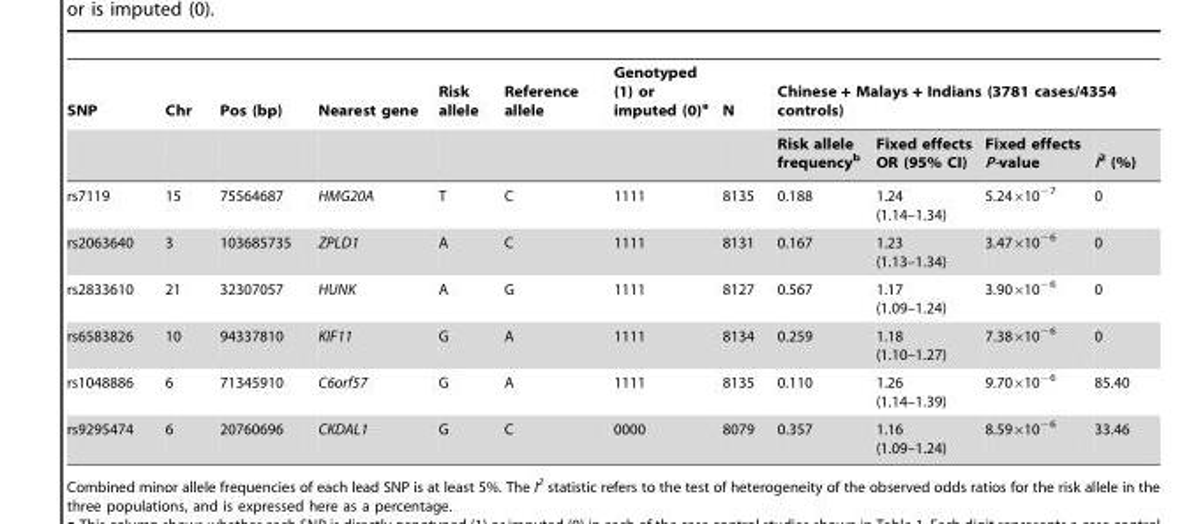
<table><thead><tr><td rowspan="2">SNP</td><td rowspan="2">Chr</td><td rowspan="2">Pos (bp)</td><td rowspan="2">Nearest gene</td><td rowspan="2">Risk allele</td><td rowspan="2">Reference allele</td><td rowspan="2">Genotyped (1) or imputed (0)<sup>a</sup></td><td rowspan="2">N</td><td colspan="4">Chinese + Malays + Indians (3781 cases/4354 controls)</td></tr><tr><td>Risk allele frequency<sup>b</sup></td><td>Fixed effects OR (95% CI)</td><td>Fixed effects P-value</td><td>I<sup>2</sup> (%)</td></tr></thead><tbody><tr><td>rs7119</td><td>15</td><td>75564687</td><td>HMG20A</td><td>T</td><td>C</td><td>1111</td><td>8135</td><td>0.188</td><td>1.24 (1.14–1.34)</td><td>5.24×10<sup>−7</sup></td><td>0</td></tr><tr><td>rs2063640</td><td>3</td><td>103685735</td><td>ZPLD1</td><td>A</td><td>C</td><td>1111</td><td>8131</td><td>0.167</td><td>1.23 (1.13–1.34)</td><td>3.47×10<sup>−6</sup></td><td>0</td></tr><tr><td>rs2833610</td><td>21</td><td>32307057</td><td>HUNK</td><td>A</td><td>G</td><td>1111</td><td>8127</td><td>0.567</td><td>1.17 (1.09–1.24)</td><td>3.90×10<sup>−6</sup></td><td>0</td></tr><tr><td>rs6583826</td><td>10</td><td>94337810</td><td>KIF11</td><td>G</td><td>A</td><td>1111</td><td>8134</td><td>0.259</td><td>1.18 (1.10–1.27)</td><td>7.38×10<sup>−6</sup></td><td>0</td></tr><tr><td>rs1048886</td><td>6</td><td>71345910</td><td>C6orf57</td><td>G</td><td>A</td><td>1111</td><td>8135</td><td>0.110</td><td>1.26 (1.14–1.39)</td><td>9.70×10<sup>−6</sup></td><td>85.40</td></tr><tr><td>rs9295474</td><td>6</td><td>20760696</td><td>CKDAL1</td><td>G</td><td>C</td><td>0000</td><td>8079</td><td>0.357</td><td>1.16 (1.09–1.24)</td><td>8.59×10<sup>−6</sup></td><td>33.46</td></tr></tbody></table>